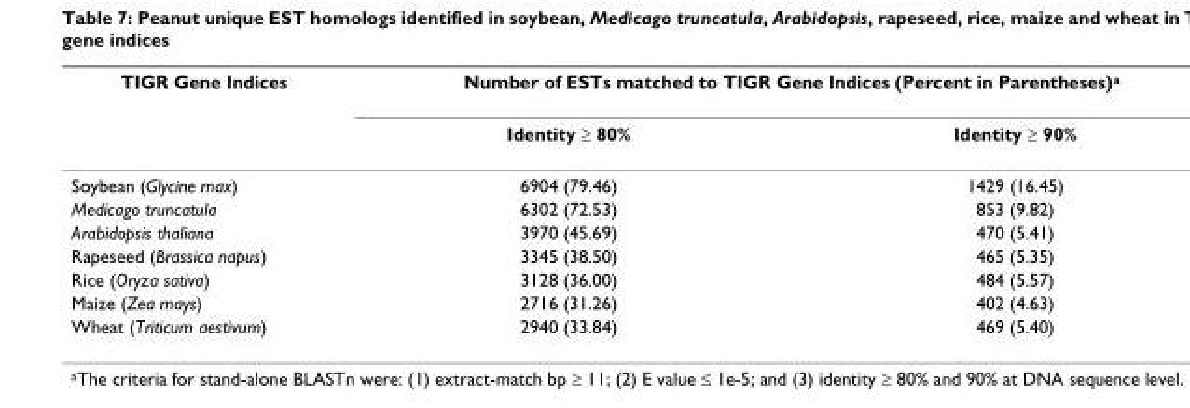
<table><thead><tr><td rowspan="2">TIGR Gene Indices</td><td colspan="2">Number of ESTs matched to TIGR Gene Indices (Percent in Parentheses)<sup>a</sup></td></tr><tr><td>Identity ≥ 80%</td><td>Identity ≥ 90%</td></tr></thead><tbody><tr><td>Soybean (Glycine max)</td><td>6904 (79.46)</td><td>1429 (16.45)</td></tr><tr><td>Medicago truncatula</td><td>6302 (72.53)</td><td>853 (9.82)</td></tr><tr><td>Arabidopsis thaliana</td><td>3970 (45.69)</td><td>470 (5.41)</td></tr><tr><td>Rapeseed (Brassica napus)</td><td>3345 (38.50)</td><td>465 (5.35)</td></tr><tr><td>Rice (Oryza sativa)</td><td>3128 (36.00)</td><td>484 (5.57)</td></tr><tr><td>Maize (Zea mays)</td><td>2716 (31.26)</td><td>402 (4.63)</td></tr><tr><td>Wheat (Triticum aestivum)</td><td>2940 (33.84)</td><td>469 (5.40)</td></tr></tbody></table>